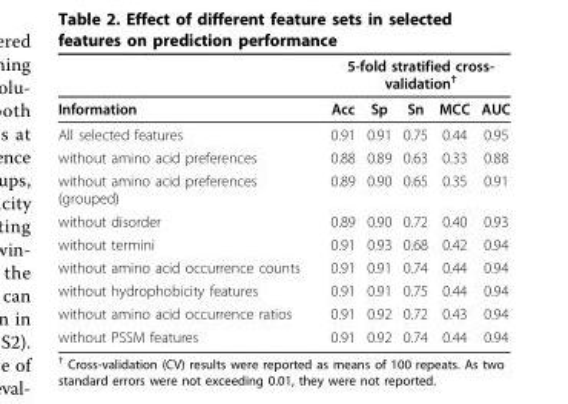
<table><thead><tr><td rowspan="2">Information</td><td colspan="5">5-fold stratified cross- validation<sup>†</sup></td></tr><tr><td>Acc</td><td>Sp</td><td>Sn</td><td>MCC</td><td>AUC</td></tr></thead><tbody><tr><td>All selected features</td><td>0.91</td><td>0.91</td><td>0.75</td><td>0.44</td><td>0.95</td></tr><tr><td>without amino acid preferences</td><td>0.88</td><td>0.89</td><td>0.63</td><td>0.33</td><td>0.88</td></tr><tr><td>without amino acid preferences (grouped)</td><td>0.89</td><td>0.90</td><td>0.65</td><td>0.35</td><td>0.91</td></tr><tr><td>without disorder</td><td>0.89</td><td>0.90</td><td>0.72</td><td>0.40</td><td>0.93</td></tr><tr><td>without termini</td><td>0.91</td><td>0.93</td><td>0.68</td><td>0.42</td><td>0.94</td></tr><tr><td>without amino acid occurrence counts</td><td>0.91</td><td>0.91</td><td>0.74</td><td>0.44</td><td>0.94</td></tr><tr><td>without hydrophobicity features</td><td>0.91</td><td>0.91</td><td>0.75</td><td>0.44</td><td>0.94</td></tr><tr><td>without amino acid occurrence ratios</td><td>0.91</td><td>0.92</td><td>0.72</td><td>0.43</td><td>0.94</td></tr><tr><td>without PSSM features</td><td>0.91</td><td>0.92</td><td>0.74</td><td>0.44</td><td>0.94</td></tr></tbody></table>